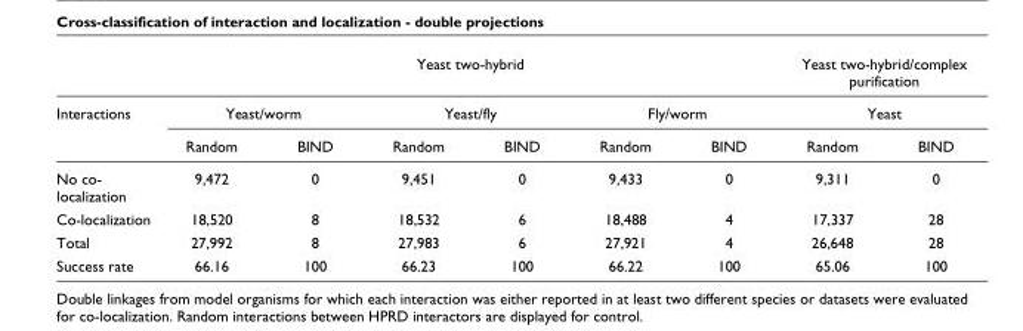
<table><thead><tr><td rowspan="3">Interactions</td><td colspan="6">Yeast two-hybrid</td><td rowspan="2" colspan="2">Yeast two-hybrid/complex purification Yeast</td></tr><tr><td colspan="2">Yeast/worm</td><td colspan="2">Yeast/fly</td><td colspan="2">Fly/worm</td></tr><tr><td>Random</td><td>BIND</td><td>Random</td><td>BIND</td><td>Random</td><td>BIND</td><td>Random</td><td>BIND</td></tr></thead><tbody><tr><td>No co- localization</td><td>9,472</td><td>0</td><td>9,451</td><td>0</td><td>9,433</td><td>0</td><td>9,311</td><td>0</td></tr><tr><td>Co-localization</td><td>18,520</td><td>8</td><td>18,532</td><td>6</td><td>18,488</td><td>4</td><td>17,337</td><td>28</td></tr><tr><td>Total</td><td>27,992</td><td>8</td><td>27,983</td><td>6</td><td>27,921</td><td>4</td><td>26,648</td><td>28</td></tr><tr><td>Success rate</td><td>66.16</td><td>100</td><td>66.23</td><td>100</td><td>66.22</td><td>100</td><td>65.06</td><td>100</td></tr></tbody></table>